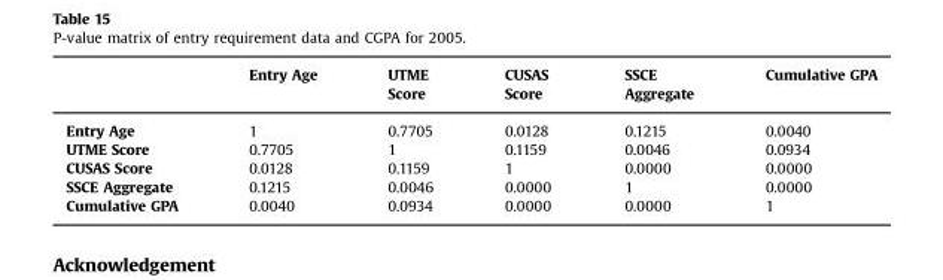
<table><thead><tr><td></td><td>Entry Age</td><td>UTME Score</td><td>CUSAS Score</td><td>SSCE Aggregate</td><td>Cumulative GPA</td></tr></thead><tbody><tr><td>Entry Age</td><td>1</td><td>0.7705</td><td>0.0128</td><td>0.1215</td><td>0.0040</td></tr><tr><td>UTME Score</td><td>0.7705</td><td>1</td><td>0.1159</td><td>0.0046</td><td>0.0934</td></tr><tr><td>CUSAS Score</td><td>0.0128</td><td>0.1159</td><td>1</td><td>0.0000</td><td>0.0000</td></tr><tr><td>SSCE Aggregate</td><td>0.1215</td><td>0.0046</td><td>0.0000</td><td>1</td><td>0.0000</td></tr><tr><td>Cumulative GPA</td><td>0.0040</td><td>0.0934</td><td>0.0000</td><td>0.0000</td><td>1</td></tr></tbody></table>